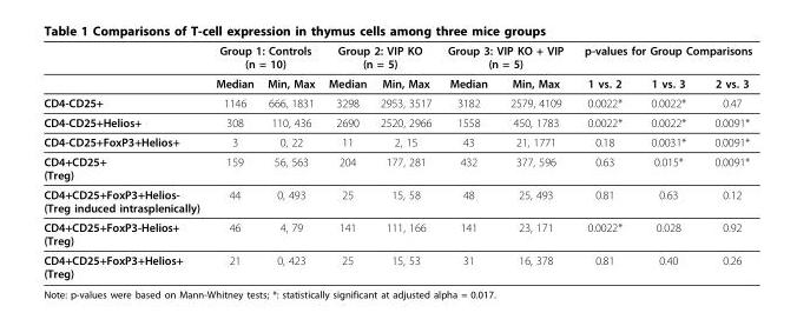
<table><thead><tr><td rowspan="2"></td><td colspan="2">Group 1: Controls (n = 10)</td><td colspan="2">Group 2: VIP KO (n = 5)</td><td colspan="2">Group 3: VIP KO + VIP (n = 5)</td><td colspan="3">p-values for Group Comparisons</td></tr><tr><td>Median</td><td>Min, Max</td><td>Median</td><td>Min, Max</td><td>Median</td><td>Min, Max</td><td>1 vs. 2</td><td>1 vs. 3</td><td>2 vs. 3</td></tr></thead><tbody><tr><td>CD4-CD25+</td><td>1146</td><td>666, 1831</td><td>3298</td><td>2953, 3517</td><td>3182</td><td>2579, 4109</td><td>0.0022*</td><td>0.0022*</td><td>0.47</td></tr><tr><td>CD4-CD25+Helios+</td><td>308</td><td>110, 436</td><td>2690</td><td>2520, 2966</td><td>1558</td><td>450, 1783</td><td>0.0022*</td><td>0.0022*</td><td>0.0091*</td></tr><tr><td>CD4-CD25+FoxP3+Helios+</td><td>3</td><td>0, 22</td><td>11</td><td>2, 15</td><td>43</td><td>21, 1771</td><td>0.18</td><td>0.0031*</td><td>0.0091*</td></tr><tr><td>CD4+CD25+ (Treg)</td><td>159</td><td>56, 563</td><td>204</td><td>177, 281</td><td>432</td><td>377, 596</td><td>0.63</td><td>0.015*</td><td>0.0091*</td></tr><tr><td>CD4+CD25+FoxP3+Helios- (Treg induced intrasplenically)</td><td>44</td><td>0, 493</td><td>25</td><td>15, 58</td><td>48</td><td>25, 493</td><td>0.81</td><td>0.63</td><td>0.12</td></tr><tr><td>CD4+CD25+FoxP3-Helios+ (Treg)</td><td>46</td><td>4, 79</td><td>141</td><td>111, 166</td><td>141</td><td>23, 171</td><td>0.0022*</td><td>0.028</td><td>0.92</td></tr><tr><td>CD4+CD25+FoxP3+Helios+ (Treg)</td><td>21</td><td>0, 423</td><td>25</td><td>15, 53</td><td>31</td><td>16, 378</td><td>0.81</td><td>0.40</td><td>0.26</td></tr></tbody></table>